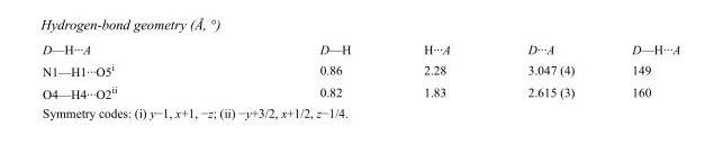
<table><tbody><tr><td>D—H···A</td><td>D—H</td><td>H···A</td><td>D···A</td><td>D—H···A</td></tr><tr><td>N1—H1···O5<sup>i</sup></td><td>0.86</td><td>2.28</td><td>3.047 (4)</td><td>149</td></tr><tr><td>O4—H4···O2<sup>ii</sup></td><td>0.82</td><td>1.83</td><td>2.615 (3)</td><td>160</td></tr></tbody></table>